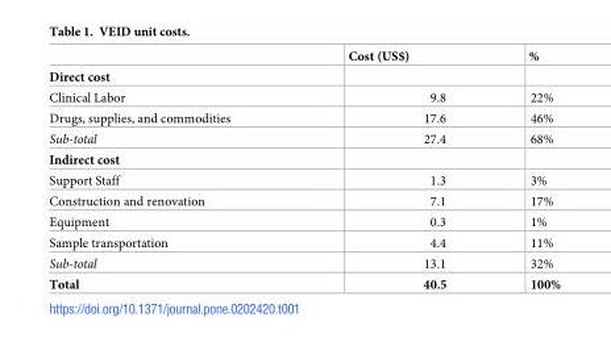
<table><thead><tr><td></td><td>Cost (US$)</td><td>%</td></tr></thead><tbody><tr><td colspan="3">Direct cost</td></tr><tr><td>Clinical Labor</td><td>9.8</td><td>22%</td></tr><tr><td>Drugs, supplies, and commodities</td><td>17.6</td><td>46%</td></tr><tr><td>Sub-total</td><td>27.4</td><td>68%</td></tr><tr><td colspan="3">Indirect cost</td></tr><tr><td>Support Staff</td><td>1.3</td><td>3%</td></tr><tr><td>Construction and renovation</td><td>7.1</td><td>17%</td></tr><tr><td>Equipment</td><td>0.3</td><td>1%</td></tr><tr><td>Sample transportation</td><td>4.4</td><td>11%</td></tr><tr><td>Sub-total</td><td>13.1</td><td>32%</td></tr><tr><td>Total</td><td>40.5</td><td>100%</td></tr></tbody></table>